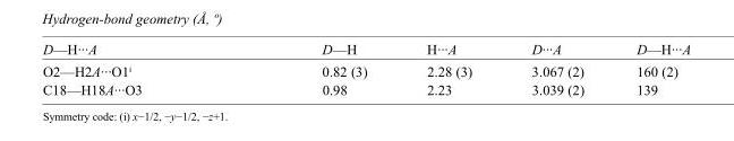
<table><tbody><tr><td>D—H···A</td><td>D—H</td><td>H···A</td><td>D···A</td><td>D—H···A</td></tr><tr><td>O2—H2A···O1<sup>i</sup></td><td>0.82 (3)</td><td>2.28 (3)</td><td>3.067 (2)</td><td>160 (2)</td></tr><tr><td>C18—H18A···O3</td><td>0.98</td><td>2.23</td><td>3.039 (2)</td><td>139</td></tr></tbody></table>